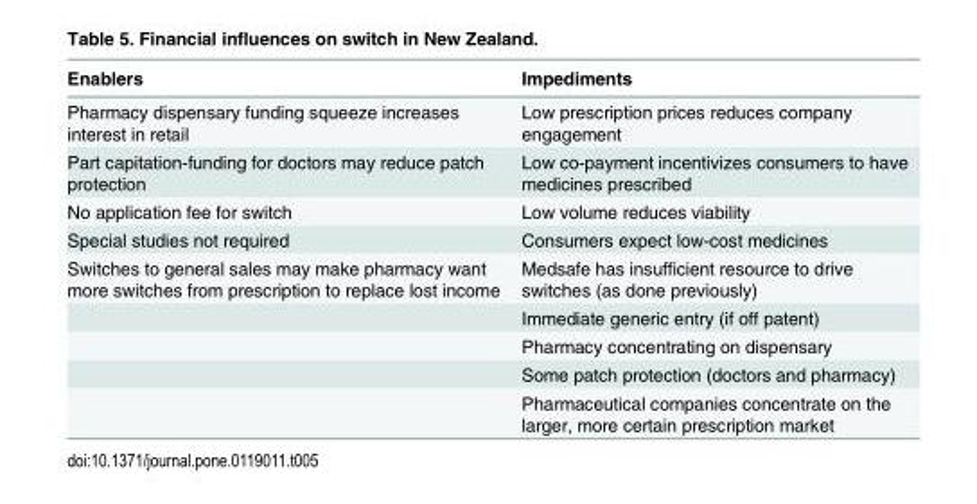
<table><thead><tr><td>Enablers</td><td>Impediments</td></tr></thead><tbody><tr><td>Pharmacy dispensary funding squeeze increases interest in retail</td><td>Low prescription prices reduces company engagement</td></tr><tr><td>Part capitation-funding for doctors may reduce patch protection</td><td>Low co-payment incentivizes consumers to have medicines prescribed</td></tr><tr><td>No application fee for switch</td><td>Low volume reduces viability</td></tr><tr><td>Special studies not required</td><td>Consumers expect low-cost medicines</td></tr><tr><td rowspan="5">Switches to general sales may make pharmacy want more switches from prescription to replace lost income</td><td>Medsafe has insufficient resource to drive switches (as done previously)</td></tr><tr><td>Immediate generic entry (if off patent)</td></tr><tr><td>Pharmacy concentrating on dispensary</td></tr><tr><td>Some patch protection (doctors and pharmacy)</td></tr><tr><td>Pharmaceutical companies concentrate on the larger, more certain prescription market</td></tr></tbody></table>